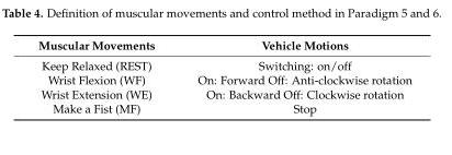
<table><thead><tr><td>Muscular Movements</td><td>Vehicle Motions</td></tr></thead><tbody><tr><td>Keep Relaxed (REST)</td><td>Switching: on/off</td></tr><tr><td>Wrist Flexion (WF)</td><td>On: Forward Off: Anti-clockwise rotation</td></tr><tr><td>Wrist Extension (WE)</td><td>On: Backward Off: Clockwise rotation</td></tr><tr><td>Make a Fist (MF)</td><td>Stop</td></tr></tbody></table>